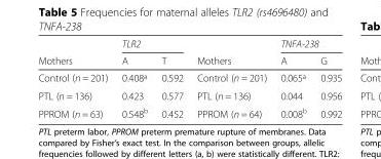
<table><thead><tr><td rowspan="2">Mothers</td><td colspan="2">TLR2</td><td rowspan="2">Mothers</td><td colspan="2">TNFA-238</td></tr><tr><td>A</td><td>T</td><td>A</td><td>G</td></tr></thead><tbody><tr><td>Control (n = 201)</td><td>0.408ª</td><td>0.592</td><td>Control (n = 201)</td><td>0.065ª</td><td>0.935</td></tr><tr><td>PTL (n = 136)</td><td>0.423</td><td>0.577</td><td>PTL (n = 136)</td><td>0.044</td><td>0.956</td></tr><tr><td>PPROM (n = 63)</td><td>0.548<sup>b</sup></td><td>0.452</td><td>PPROM (n = 64)</td><td>0.008<sup>b</sup></td><td>0.992</td></tr></tbody></table>